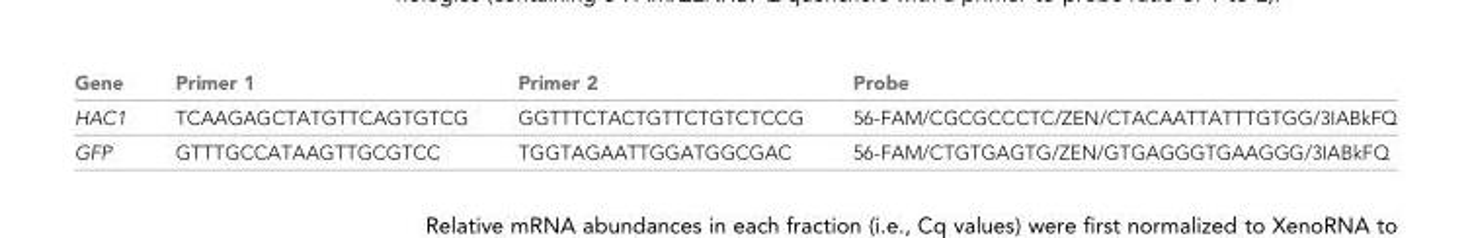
<table><thead><tr><td>Gene</td><td>Primer 1</td><td>Primer 2</td><td>Probe</td></tr></thead><tbody><tr><td>HAC1</td><td>TCAAGAGCTATGTTCAGTGTCG</td><td>GGTTTCTACTGTTCTGTCTCCG</td><td>56-FAM/CGCGCCCTC/ZEN/CTACAATTATTTGTGG/3IABkFQ</td></tr><tr><td>GFP</td><td>GTTTGCCATAAGTTGCGTCC</td><td>TGGTAGAATTGGATGGCGAC</td><td>56-FAM/CTGTGAGTG/ZEN/GTGAGGGTGAAGGG/3IABkFQ</td></tr></tbody></table>